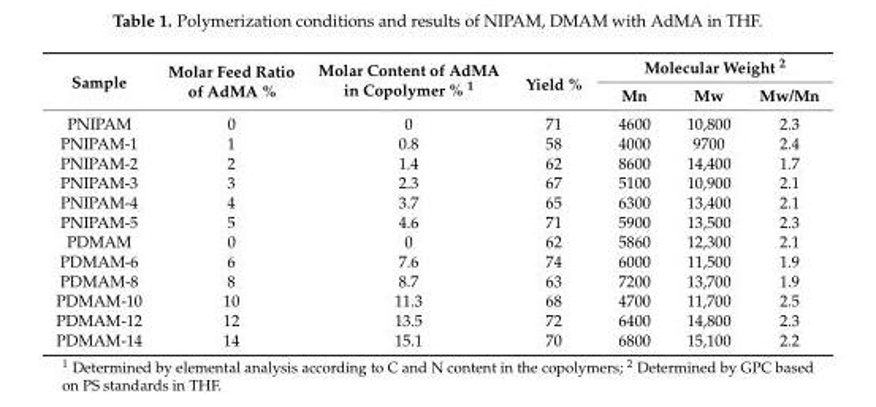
<table><thead><tr><td rowspan="2">Sample</td><td rowspan="2">Molar Feed Ratio of AdMA %</td><td rowspan="2">Molar Content of AdMA in Copolymer % 1</td><td rowspan="2">Yield %</td><td colspan="3">Molecular Weight 2</td></tr><tr><td>Mn</td><td>Mw</td><td>Mw/Mn</td></tr></thead><tbody><tr><td>PNIPAM</td><td>0</td><td>0</td><td>71</td><td>4600</td><td>10,800</td><td>2.3</td></tr><tr><td>PNIPAM-1</td><td>1</td><td>0.8</td><td>58</td><td>4000</td><td>9700</td><td>2.4</td></tr><tr><td>PNIPAM-2</td><td>2</td><td>1.4</td><td>62</td><td>8600</td><td>14,400</td><td>1.7</td></tr><tr><td>PNIPAM-3</td><td>3</td><td>2.3</td><td>67</td><td>5100</td><td>10,900</td><td>2.1</td></tr><tr><td>PNIPAM-4</td><td>4</td><td>3.7</td><td>65</td><td>6300</td><td>13,400</td><td>2.1</td></tr><tr><td>PNIPAM-5</td><td>5</td><td>4.6</td><td>71</td><td>5900</td><td>13,500</td><td>2.3</td></tr><tr><td>PDMAM</td><td>0</td><td>0</td><td>62</td><td>5860</td><td>12,300</td><td>2.1</td></tr><tr><td>PDMAM-6</td><td>6</td><td>7.6</td><td>74</td><td>6000</td><td>11,500</td><td>1.9</td></tr><tr><td>PDMAM-8</td><td>8</td><td>8.7</td><td>63</td><td>7200</td><td>13,700</td><td>1.9</td></tr><tr><td>PDMAM-10</td><td>10</td><td>11.3</td><td>68</td><td>4700</td><td>11,700</td><td>2.5</td></tr><tr><td>PDMAM-12</td><td>12</td><td>13.5</td><td>72</td><td>6400</td><td>14,800</td><td>2.3</td></tr><tr><td>PDMAM-14</td><td>14</td><td>15.1</td><td>70</td><td>6800</td><td>15,100</td><td>2.2</td></tr></tbody></table>